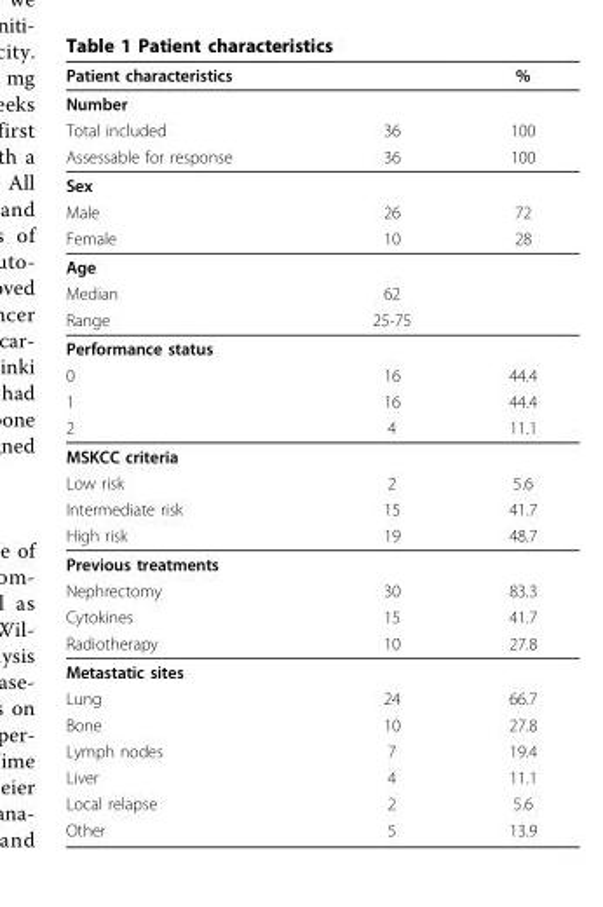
<table><thead><tr><td>Patient characteristics</td><td></td><td>%</td></tr></thead><tbody><tr><td colspan="3">Number</td></tr><tr><td>Total included</td><td>36</td><td>100</td></tr><tr><td>Assessable for response</td><td>36</td><td>100</td></tr><tr><td colspan="3">Sex</td></tr><tr><td>Male</td><td>26</td><td>72</td></tr><tr><td>Female</td><td>10</td><td>28</td></tr><tr><td colspan="3">Age</td></tr><tr><td>Median</td><td>62</td><td></td></tr><tr><td>Range</td><td>25-75</td><td></td></tr><tr><td colspan="3">Performance status</td></tr><tr><td>0</td><td>16</td><td>44.4</td></tr><tr><td>1</td><td>16</td><td>44.4</td></tr><tr><td>2</td><td>4</td><td>11.1</td></tr><tr><td colspan="3">MSKCC criteria</td></tr><tr><td>Low risk</td><td>2</td><td>5.6</td></tr><tr><td>Intermediate risk</td><td>15</td><td>41.7</td></tr><tr><td>High risk</td><td>19</td><td>48.7</td></tr><tr><td colspan="3">Previous treatments</td></tr><tr><td>Nephrectomy</td><td>30</td><td>83.3</td></tr><tr><td>Cytokines</td><td>15</td><td>41.7</td></tr><tr><td>Radiotherapy</td><td>10</td><td>27.8</td></tr><tr><td colspan="3">Metastatic sites</td></tr><tr><td>Lung</td><td>24</td><td>66.7</td></tr><tr><td>Bone</td><td>10</td><td>27.8</td></tr><tr><td>Lymph nodes</td><td>7</td><td>19.4</td></tr><tr><td>Liver</td><td>4</td><td>11.1</td></tr><tr><td>Local relapse</td><td>2</td><td>5.6</td></tr><tr><td>Other</td><td>5</td><td>13.9</td></tr></tbody></table>